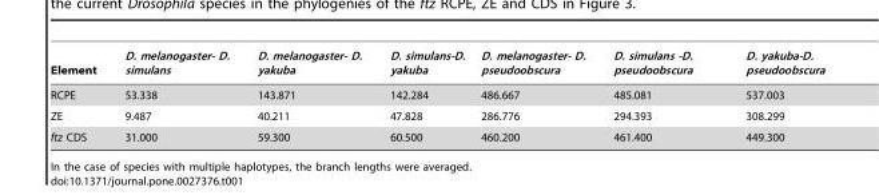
<table><thead><tr><td>Element</td><td>D. melanogaster- D. simulans</td><td>D. melanogaster- D. yakuba</td><td>D. simulans-D. yakuba</td><td>D. melanogaster- D. pseudoobscura</td><td>D. simulans -D. pseudoobscura</td><td>D. yakuba-D. pseudoobscura</td></tr></thead><tbody><tr><td>RCPE</td><td>53.338</td><td>143.871</td><td>142.284</td><td>486.667</td><td>485.081</td><td>537.003</td></tr><tr><td>ZE</td><td>9.487</td><td>40.211</td><td>47.828</td><td>286.776</td><td>294.393</td><td>308.299</td></tr><tr><td>ftz CDS</td><td>31.000</td><td>59.300</td><td>60.500</td><td>460.200</td><td>461.400</td><td>449.300</td></tr></tbody></table>